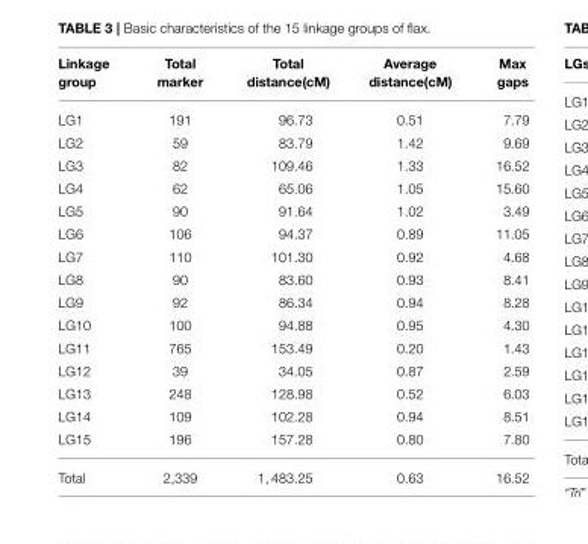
<table><thead><tr><td>Linkage group</td><td>Total marker</td><td>Total distance(cM)</td><td>Average distance(cM)</td><td>Max gaps</td></tr></thead><tbody><tr><td>LG1</td><td>191</td><td>96.73</td><td>0.51</td><td>7.79</td></tr><tr><td>LG2</td><td>59</td><td>83.79</td><td>1.42</td><td>9.69</td></tr><tr><td>LG3</td><td>82</td><td>109.46</td><td>1.33</td><td>16.52</td></tr><tr><td>LG4</td><td>62</td><td>65.06</td><td>1.05</td><td>15.60</td></tr><tr><td>LG5</td><td>90</td><td>91.64</td><td>1.02</td><td>3.49</td></tr><tr><td>LG6</td><td>106</td><td>94.37</td><td>0.89</td><td>11.05</td></tr><tr><td>LG7</td><td>110</td><td>101.30</td><td>0.92</td><td>4.68</td></tr><tr><td>LG8</td><td>90</td><td>83.60</td><td>0.93</td><td>8.41</td></tr><tr><td>LG9</td><td>92</td><td>86.34</td><td>0.94</td><td>8.28</td></tr><tr><td>LG10</td><td>100</td><td>94.88</td><td>0.95</td><td>4.30</td></tr><tr><td>LG11</td><td>765</td><td>153.49</td><td>0.20</td><td>1.43</td></tr><tr><td>LG12</td><td>39</td><td>34.05</td><td>0.87</td><td>2.59</td></tr><tr><td>LG13</td><td>248</td><td>128.98</td><td>0.52</td><td>6.03</td></tr><tr><td>LG14</td><td>109</td><td>102.28</td><td>0.94</td><td>8.51</td></tr><tr><td>LG15</td><td>196</td><td>157.28</td><td>0.80</td><td>7.80</td></tr><tr><td>Total</td><td>2,339</td><td>1, 483.25</td><td>0.63</td><td>16.52</td></tr></tbody></table>